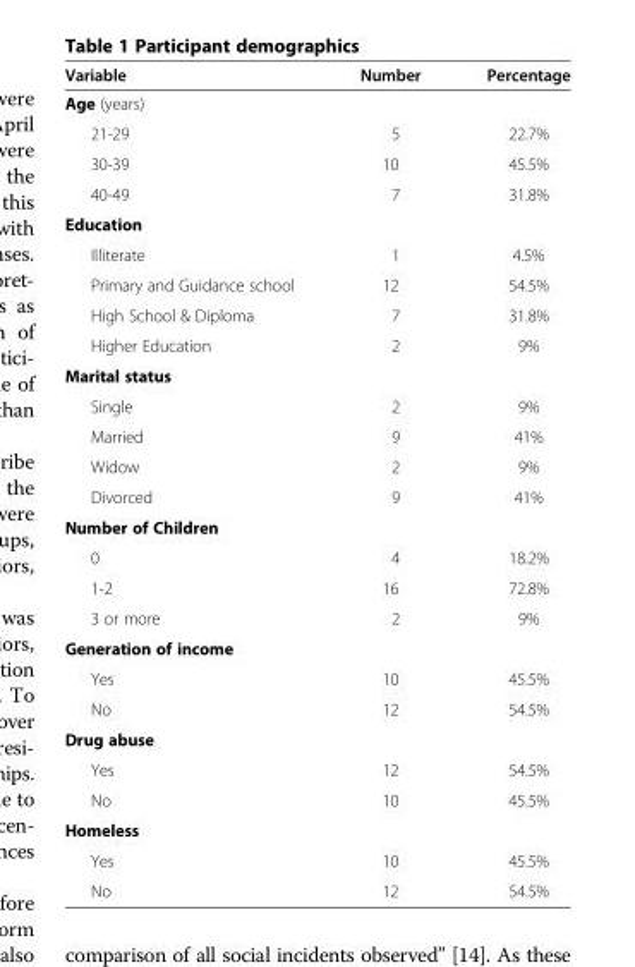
<table><thead><tr><td>Variable</td><td>Number</td><td>Percentage</td></tr></thead><tbody><tr><td colspan="3">Age (years)</td></tr><tr><td>21-29</td><td>5</td><td>22.7%</td></tr><tr><td>30-39</td><td>10</td><td>45.5%</td></tr><tr><td>40-49</td><td>7</td><td>31.8%</td></tr><tr><td colspan="3">Education</td></tr><tr><td>Illiterate</td><td>1</td><td>4.5%</td></tr><tr><td>Primary and Guidance school</td><td>12</td><td>54.5%</td></tr><tr><td>High School &amp; Diploma</td><td>7</td><td>31.8%</td></tr><tr><td>Higher Education</td><td>2</td><td>9%</td></tr><tr><td colspan="3">Marital status</td></tr><tr><td>Single</td><td>2</td><td>9%</td></tr><tr><td>Married</td><td>9</td><td>41%</td></tr><tr><td>Widow</td><td>2</td><td>9%</td></tr><tr><td>Divorced</td><td>9</td><td>41%</td></tr><tr><td colspan="3">Number of Children</td></tr><tr><td>0</td><td>4</td><td>18.2%</td></tr><tr><td>1-2</td><td>16</td><td>72.8%</td></tr><tr><td>3 or more</td><td>2</td><td>9%</td></tr><tr><td colspan="3">Generation of income</td></tr><tr><td>Yes</td><td>10</td><td>45.5%</td></tr><tr><td>No</td><td>12</td><td>54.5%</td></tr><tr><td colspan="3">Drug abuse</td></tr><tr><td>Yes</td><td>12</td><td>54.5%</td></tr><tr><td>No</td><td>10</td><td>45.5%</td></tr><tr><td colspan="3">Homeless</td></tr><tr><td>Yes</td><td>10</td><td>45.5%</td></tr><tr><td>No</td><td>12</td><td>54.5%</td></tr></tbody></table>